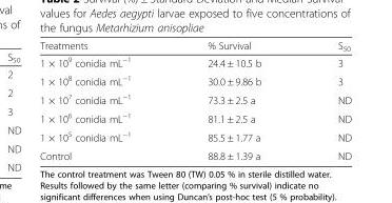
<table><thead><tr><td>Treatments</td><td>% Survival</td><td>S<sub>50</sub></td></tr></thead><tbody><tr><td>1 × 10<sup>9</sup> conidia mL<sup>−1</sup></td><td>24.4 ± 10.5 b</td><td>3</td></tr><tr><td>1 × 10<sup>8</sup> conidia mL<sup>−1</sup></td><td>30.0 ± 9.86 b</td><td>3</td></tr><tr><td>1 × 10<sup>7</sup> conidia mL<sup>−1</sup></td><td>73.3 ± 2.5 a</td><td>ND</td></tr><tr><td>1 × 10<sup>6</sup> conidia mL<sup>−1</sup></td><td>81.1 ± 2.5 a</td><td>ND</td></tr><tr><td>1 × 10<sup>5</sup> conidia mL<sup>−1</sup></td><td>85.5 ± 1.77 a</td><td>ND</td></tr><tr><td>Control</td><td>88.8 ± 1.39 a</td><td>ND</td></tr></tbody></table>